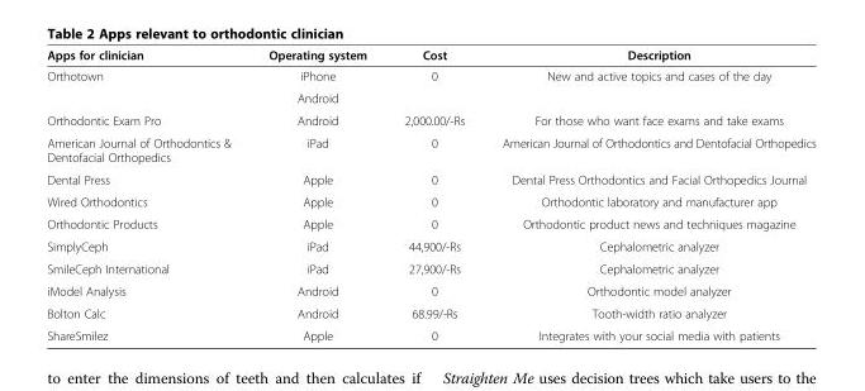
<table><thead><tr><td>Apps for clinician</td><td>Operating system</td><td>Cost</td><td>Description</td></tr></thead><tbody><tr><td rowspan="2">Orthotown</td><td>iPhone</td><td rowspan="2">0</td><td rowspan="2">New and active topics and cases of the day</td></tr><tr><td>Android</td></tr><tr><td>Orthodontic Exam Pro</td><td>Android</td><td>2,000.00/-Rs</td><td>For those who want face exams and take exams</td></tr><tr><td>American Journal of Orthodontics &amp; Dentofacial Orthopedics</td><td>iPad</td><td>0</td><td>American Journal of Orthodontics and Dentofacial Orthopedics</td></tr><tr><td>Dental Press</td><td>Apple</td><td>0</td><td>Dental Press Orthodontics and Facial Orthopedics Journal</td></tr><tr><td>Wired Orthodontics</td><td>Apple</td><td>0</td><td>Orthodontic laboratory and manufacturer app</td></tr><tr><td>Orthodontic Products</td><td>Apple</td><td>0</td><td>Orthodontic product news and techniques magazine</td></tr><tr><td>SimplyCeph</td><td>iPad</td><td>44,900/-Rs</td><td>Cephalometric analyzer</td></tr><tr><td>SmileCeph International</td><td>iPad</td><td>27,900/-Rs</td><td>Cephalometric analyzer</td></tr><tr><td>iModel Analysis</td><td>Android</td><td>0</td><td>Orthodontic model analyzer</td></tr><tr><td>Bolton Calc</td><td>Android</td><td>68.99/-Rs</td><td>Tooth-width ratio analyzer</td></tr><tr><td>ShareSmilez</td><td>Apple</td><td>0</td><td>Integrates with your social media with patients</td></tr></tbody></table>